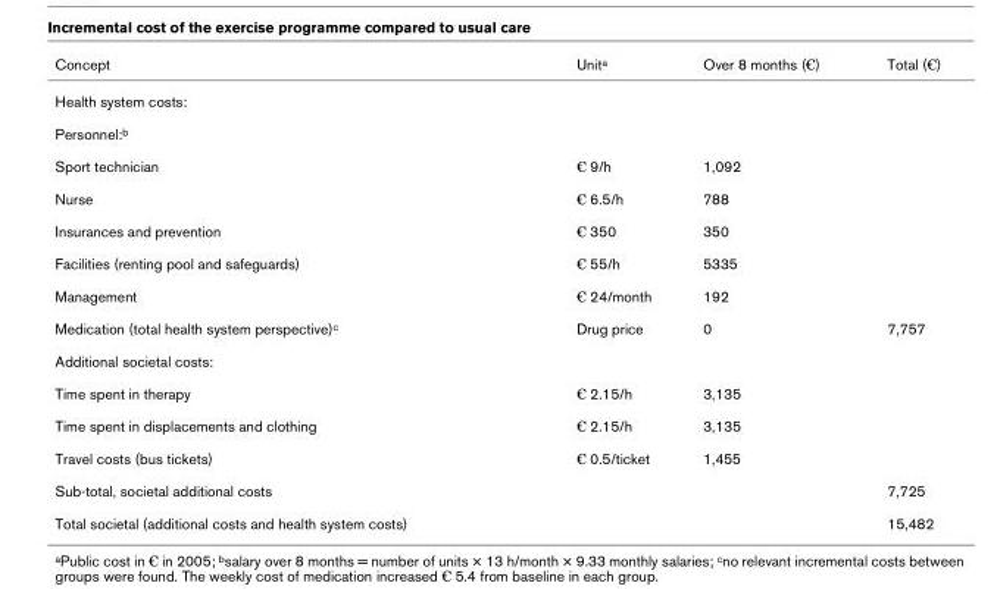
<table><thead><tr><td>Concept</td><td>Unit<sup>a</sup></td><td>Over 8 months (€)</td><td>Total (€)</td></tr></thead><tbody><tr><td colspan="4">Health system costs:</td></tr><tr><td colspan="4">Personnel:<sup>b</sup></td></tr><tr><td>Sport technician</td><td>€ 9/h</td><td>1,092</td><td></td></tr><tr><td>Nurse</td><td>€ 6.5/h</td><td>788</td><td></td></tr><tr><td>Insurances and prevention</td><td>€ 350</td><td>350</td><td></td></tr><tr><td>Facilities (renting pool and safeguards)</td><td>€ 55/h</td><td>5335</td><td></td></tr><tr><td>Management</td><td>€ 24/month</td><td>192</td><td></td></tr><tr><td>Medication (total health system perspective)<sup>c</sup></td><td>Drug price</td><td>0</td><td>7,757</td></tr><tr><td colspan="4">Additional societal costs:</td></tr><tr><td>Time spent in therapy</td><td>€ 2.15/h</td><td>3,135</td><td></td></tr><tr><td>Time spent in displacements and clothing</td><td>€ 2.15/h</td><td>3,135</td><td></td></tr><tr><td>Travel costs (bus tickets)</td><td>€ 0.5/ticket</td><td>1,455</td><td></td></tr><tr><td>Sub-total, societal additional costs</td><td></td><td></td><td>7,725</td></tr><tr><td>Total societal (additional costs and health system costs)</td><td></td><td></td><td>15,482</td></tr></tbody></table>